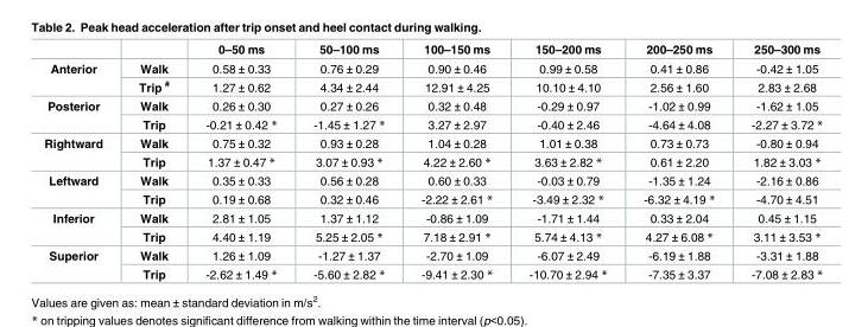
<table><thead><tr><td></td><td></td><td>0–50 ms</td><td>50–100 ms</td><td>100–150 ms</td><td>150–200 ms</td><td>200–250 ms</td><td>250–300 ms</td></tr></thead><tbody><tr><td rowspan="2">Anterior</td><td>Walk</td><td>0.58 ± 0.33</td><td>0.76 ± 0.29</td><td>0.90 ± 0.46</td><td>0.99 ± 0.58</td><td>0.41 ± 0.86</td><td>-0.42 ± 1.05</td></tr><tr><td>Trip <sup>#</sup></td><td>1.27 ± 0.62</td><td>4.34 ± 2.44</td><td>12.91 ± 4.25</td><td>10.10 ± 4.10</td><td>2.56 ± 1.60</td><td>2.83 ± 2.68</td></tr><tr><td rowspan="2">Posterior</td><td>Walk</td><td>0.26 ± 0.30</td><td>0.27 ± 0.26</td><td>0.32 ± 0.48</td><td>-0.29 ± 0.97</td><td>-1.02 ± 0.99</td><td>-1.62 ± 1.05</td></tr><tr><td>Trip</td><td>-0.21 ± 0.42 *</td><td>-1.45 ± 1.27 *</td><td>3.27 ± 2.97</td><td>-0.40 ± 2.46</td><td>-4.64 ± 4.08</td><td>-2.27 ± 3.72 *</td></tr><tr><td rowspan="2">Rightward</td><td>Walk</td><td>0.75 ± 0.32</td><td>0.93 ± 0.28</td><td>1.04 ± 0.28</td><td>1.01 ± 0.38</td><td>0.73 ± 0.73</td><td>-0.80 ± 0.94</td></tr><tr><td>Trip</td><td>1.37 ± 0.47 *</td><td>3.07 ± 0.93 *</td><td>4.22 ± 2.60 *</td><td>3.63 ± 2.82 *</td><td>0.61 ± 2.20</td><td>1.82 ± 3.03 *</td></tr><tr><td rowspan="2">Leftward</td><td>Walk</td><td>0.35 ± 0.33</td><td>0.56 ± 0.28</td><td>0.60 ± 0.33</td><td>-0.03 ± 0.79</td><td>-1.35 ± 1.24</td><td>-2.16 ± 0.86</td></tr><tr><td>Trip</td><td>0.19 ± 0.68</td><td>0.32 ± 0.46</td><td>-2.22 ± 2.61 *</td><td>-3.49 ± 2.32 *</td><td>-6.32 ± 4.19 *</td><td>-4.70 ± 4.51</td></tr><tr><td rowspan="2">Inferior</td><td>Walk</td><td>2.81 ± 1.05</td><td>1.37 ± 1.12</td><td>-0.86 ± 1.09</td><td>-1.71 ± 1.44</td><td>0.33 ± 2.04</td><td>0.45 ± 1.15</td></tr><tr><td>Trip</td><td>4.40 ± 1.19</td><td>5.25 ± 2.05 *</td><td>7.18 ± 2.91 *</td><td>5.74 ± 4.13 *</td><td>4.27 ± 6.08 *</td><td>3.11 ± 3.53 *</td></tr><tr><td rowspan="2">Superior</td><td>Walk</td><td>1.26 ± 1.09</td><td>-1.27 ± 1.37</td><td>-2.70 ± 1.09</td><td>-6.07 ± 2.49</td><td>-6.19 ± 1.88</td><td>-3.31 ± 1.88</td></tr><tr><td>Trip</td><td>-2.62 ± 1.49 *</td><td>-5.60 ± 2.82 *</td><td>-9.41 ± 2.30 *</td><td>-10.70 ± 2.94 *</td><td>-7.35 ± 3.37</td><td>-7.08 ± 2.83 *</td></tr></tbody></table>